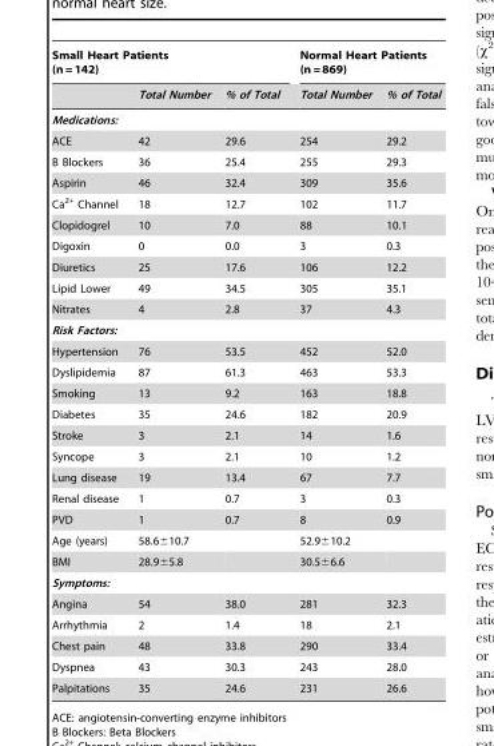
<table><thead><tr><td colspan="3">Small Heart Patients (n = 142)</td><td colspan="2">Normal Heart Patients (n = 869)</td></tr><tr><td></td><td>Total Number</td><td>% of Total</td><td>Total Number</td><td>% of Total</td></tr></thead><tbody><tr><td colspan="5">Medications:</td></tr><tr><td>ACE</td><td>42</td><td>29.6</td><td>254</td><td>29.2</td></tr><tr><td>B Blockers</td><td>36</td><td>25.4</td><td>255</td><td>29.3</td></tr><tr><td>Aspirin</td><td>46</td><td>32.4</td><td>309</td><td>35.6</td></tr><tr><td>Ca<sup>2+</sup> Channel</td><td>18</td><td>12.7</td><td>102</td><td>11.7</td></tr><tr><td>Clopidogrel</td><td>10</td><td>7.0</td><td>88</td><td>10.1</td></tr><tr><td>Digoxin</td><td>0</td><td>0.0</td><td>3</td><td>0.3</td></tr><tr><td>Diuretics</td><td>25</td><td>17.6</td><td>106</td><td>12.2</td></tr><tr><td>Lipid Lower</td><td>49</td><td>34.5</td><td>305</td><td>35.1</td></tr><tr><td>Nitrates</td><td>4</td><td>2.8</td><td>37</td><td>4.3</td></tr><tr><td colspan="5">Risk Factors:</td></tr><tr><td>Hypertension</td><td>76</td><td>53.5</td><td>452</td><td>52.0</td></tr><tr><td>Dyslipidemia</td><td>87</td><td>61.3</td><td>463</td><td>53.3</td></tr><tr><td>Smoking</td><td>13</td><td>9.2</td><td>163</td><td>18.8</td></tr><tr><td>Diabetes</td><td>35</td><td>24.6</td><td>182</td><td>20.9</td></tr><tr><td>Stroke</td><td>3</td><td>2.1</td><td>14</td><td>1.6</td></tr><tr><td>Syncope</td><td>3</td><td>2.1</td><td>10</td><td>1.2</td></tr><tr><td>Lung disease</td><td>19</td><td>13.4</td><td>67</td><td>7.7</td></tr><tr><td>Renal disease</td><td>1</td><td>0.7</td><td>3</td><td>0.3</td></tr><tr><td>PVD</td><td>1</td><td>0.7</td><td>8</td><td>0.9</td></tr><tr><td>Age (years)</td><td>58.6±10.7</td><td></td><td>52.9±10.2</td><td></td></tr><tr><td>BMI</td><td>28.9±5.8</td><td></td><td>30.5±6.6</td><td></td></tr><tr><td colspan="5">Symptoms:</td></tr><tr><td>Angina</td><td>54</td><td>38.0</td><td>281</td><td>32.3</td></tr><tr><td>Arrhythmia</td><td>2</td><td>1.4</td><td>18</td><td>2.1</td></tr><tr><td>Chest pain</td><td>48</td><td>33.8</td><td>290</td><td>33.4</td></tr><tr><td>Dyspnea</td><td>43</td><td>30.3</td><td>243</td><td>28.0</td></tr><tr><td>Palpitations</td><td>35</td><td>24.6</td><td>231</td><td>26.6</td></tr></tbody></table>